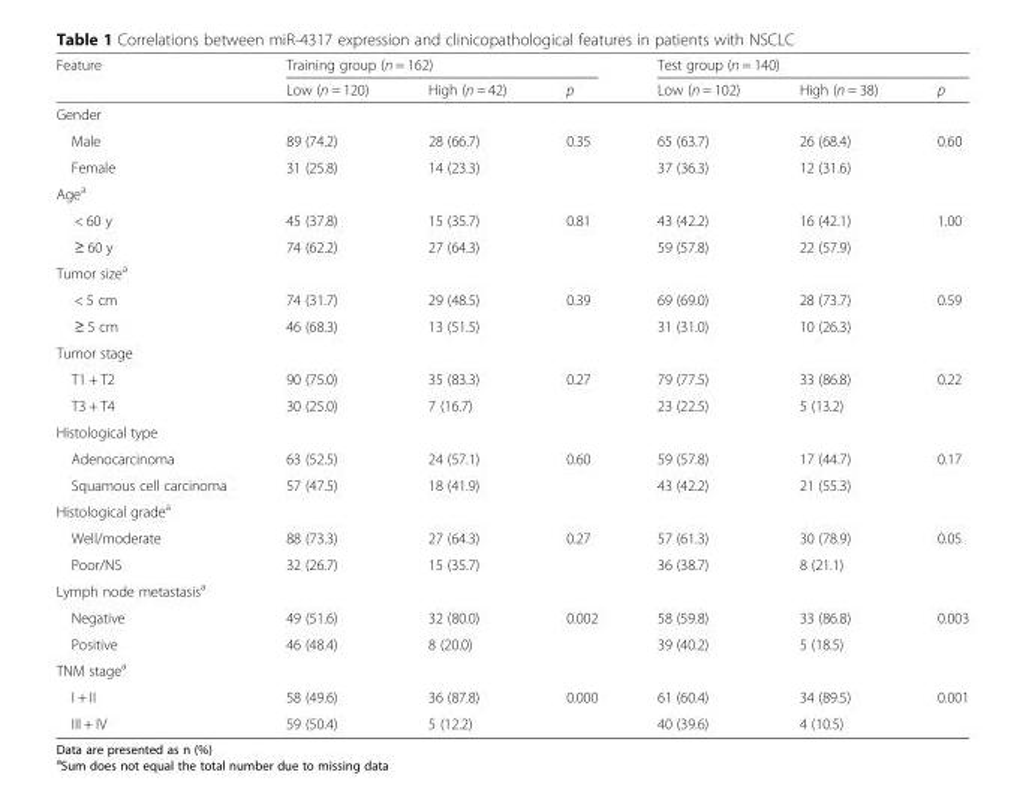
<table><thead><tr><td rowspan="2">Feature</td><td colspan="3">Training group (n = 162)</td><td colspan="3">Test group (n = 140)</td></tr><tr><td>Low (n = 120)</td><td>High (n = 42)</td><td>p</td><td>Low (n = 102)</td><td>High (n = 38)</td><td>p</td></tr></thead><tbody><tr><td colspan="7">Gender</td></tr><tr><td>Male</td><td>89 (74.2)</td><td>28 (66.7)</td><td rowspan="2">0.35</td><td>65 (63.7)</td><td>26 (68.4)</td><td rowspan="2">0.60</td></tr><tr><td>Female</td><td>31 (25.8)</td><td>14 (23.3)</td><td>37 (36.3)</td><td>12 (31.6)</td></tr><tr><td colspan="7">Age<sup>a</sup></td></tr><tr><td>&lt; 60 y</td><td>45 (37.8)</td><td>15 (35.7)</td><td rowspan="2">0.81</td><td>43 (42.2)</td><td>16 (42.1)</td><td rowspan="2">1.00</td></tr><tr><td>≥ 60 y</td><td>74 (62.2)</td><td>27 (64.3)</td><td>59 (57.8)</td><td>22 (57.9)</td></tr><tr><td colspan="7">Tumor size<sup>a</sup></td></tr><tr><td>&lt; 5 cm</td><td>74 (31.7)</td><td>29 (48.5)</td><td rowspan="2">0.39</td><td>69 (69.0)</td><td>28 (73.7)</td><td rowspan="2">0.59</td></tr><tr><td>≥ 5 cm</td><td>46 (68.3)</td><td>13 (51.5)</td><td>31 (31.0)</td><td>10 (26.3)</td></tr><tr><td colspan="7">Tumor stage</td></tr><tr><td>T1 + T2</td><td>90 (75.0)</td><td>35 (83.3)</td><td rowspan="2">0.27</td><td>79 (77.5)</td><td>33 (86.8)</td><td rowspan="2">0.22</td></tr><tr><td>T3 + T4</td><td>30 (25.0)</td><td>7 (16.7)</td><td>23 (22.5)</td><td>5 (13.2)</td></tr><tr><td colspan="7">Histological type</td></tr><tr><td>Adenocarcinoma</td><td>63 (52.5)</td><td>24 (57.1)</td><td rowspan="2">0.60</td><td>59 (57.8)</td><td>17 (44.7)</td><td rowspan="2">0.17</td></tr><tr><td>Squamous cell carcinoma</td><td>57 (47.5)</td><td>18 (41.9)</td><td>43 (42.2)</td><td>21 (55.3)</td></tr><tr><td colspan="7">Histological grade<sup>a</sup></td></tr><tr><td>Well/moderate</td><td>88 (73.3)</td><td>27 (64.3)</td><td rowspan="2">0.27</td><td>57 (61.3)</td><td>30 (78.9)</td><td rowspan="2">0.05</td></tr><tr><td>Poor/NS</td><td>32 (26.7)</td><td>15 (35.7)</td><td>36 (38.7)</td><td>8 (21.1)</td></tr><tr><td colspan="7">Lymph node metastasis<sup>a</sup></td></tr><tr><td>Negative</td><td>49 (51.6)</td><td>32 (80.0)</td><td rowspan="2">0.002</td><td>58 (59.8)</td><td>33 (86.8)</td><td rowspan="2">0.003</td></tr><tr><td>Positive</td><td>46 (48.4)</td><td>8 (20.0)</td><td>39 (40.2)</td><td>5 (18.5)</td></tr><tr><td colspan="7">TNM stage<sup>a</sup></td></tr><tr><td>I + II</td><td>58 (49.6)</td><td>36 (87.8)</td><td rowspan="2">0.000</td><td>61 (60.4)</td><td>34 (89.5)</td><td rowspan="2">0.001</td></tr><tr><td>III + IV</td><td>59 (50.4)</td><td>5 (12.2)</td><td>40 (39.6)</td><td>4 (10.5)</td></tr></tbody></table>